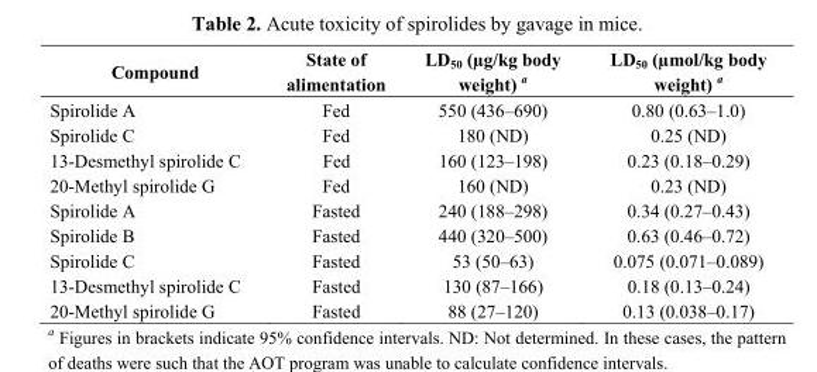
<table><thead><tr><td>Compound</td><td>State of alimentation</td><td>LD<sub>50</sub> (µg/kg body weight) <sup>a</sup></td><td>LD<sub>50</sub> (µmol/kg body weight) <sup>a</sup></td></tr></thead><tbody><tr><td>Spirolide A</td><td>Fed</td><td>550 (436–690)</td><td>0.80 (0.63–1.0)</td></tr><tr><td>Spirolide C</td><td>Fed</td><td>180 (ND)</td><td>0.25 (ND)</td></tr><tr><td>13-Desmethyl spirolide C</td><td>Fed</td><td>160 (123–198)</td><td>0.23 (0.18–0.29)</td></tr><tr><td>20-Methyl spirolide G</td><td>Fed</td><td>160 (ND)</td><td>0.23 (ND)</td></tr><tr><td>Spirolide A</td><td>Fasted</td><td>240 (188–298)</td><td>0.34 (0.27–0.43)</td></tr><tr><td>Spirolide B</td><td>Fasted</td><td>440 (320–500)</td><td>0.63 (0.46–0.72)</td></tr><tr><td>Spirolide C</td><td>Fasted</td><td>53 (50–63)</td><td>0.075 (0.071–0.089)</td></tr><tr><td>13-Desmethyl spirolide C</td><td>Fasted</td><td>130 (87–166)</td><td>0.18 (0.13–0.24)</td></tr><tr><td>20-Methyl spirolide G</td><td>Fasted</td><td>88 (27–120)</td><td>0.13 (0.038–0.17)</td></tr></tbody></table>